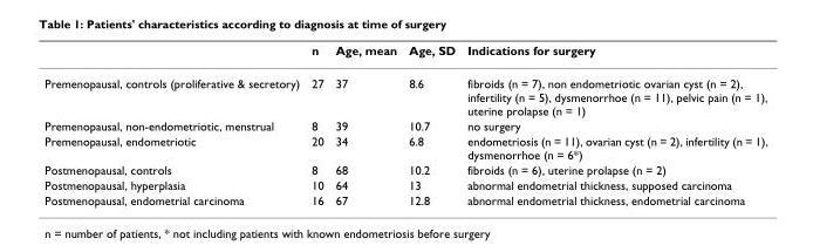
<table><thead><tr><td></td><td>n</td><td>Age, mean</td><td>Age, SD</td><td>Indications for surgery</td></tr></thead><tbody><tr><td>Premenopausal, controls (proliferative &amp; secretory)</td><td>27</td><td>37</td><td>8.6</td><td>fibroids (n = 7), non endometriotic ovarian cyst (n = 2), infertility (n = 5), dysmenorrhoe (n = 11), pelvic pain (n = 1), uterine prolapse (n = 1)</td></tr><tr><td>Premenopausal, non-endometriotic, menstrual</td><td>8</td><td>39</td><td>10.7</td><td>no surgery</td></tr><tr><td>Premenopausal, endometriotic</td><td>20</td><td>34</td><td>6.8</td><td>endometriosis (n = 11), ovarian cyst (n = 2), infertility (n = 1), dysmenorrhoe (n = 6*)</td></tr><tr><td>Postmenopausal, controls</td><td>8</td><td>68</td><td>10.2</td><td>fibroids (n = 6), uterine prolapse (n = 2)</td></tr><tr><td>Postmenopausal, hyperplasia</td><td>10</td><td>64</td><td>13</td><td>abnormal endometrial thickness, supposed carcinoma</td></tr><tr><td>Postmenopausal, endometrial carcinoma</td><td>16</td><td>67</td><td>12.8</td><td>abnormal endometrial thickness, endometrial carcinoma</td></tr></tbody></table>